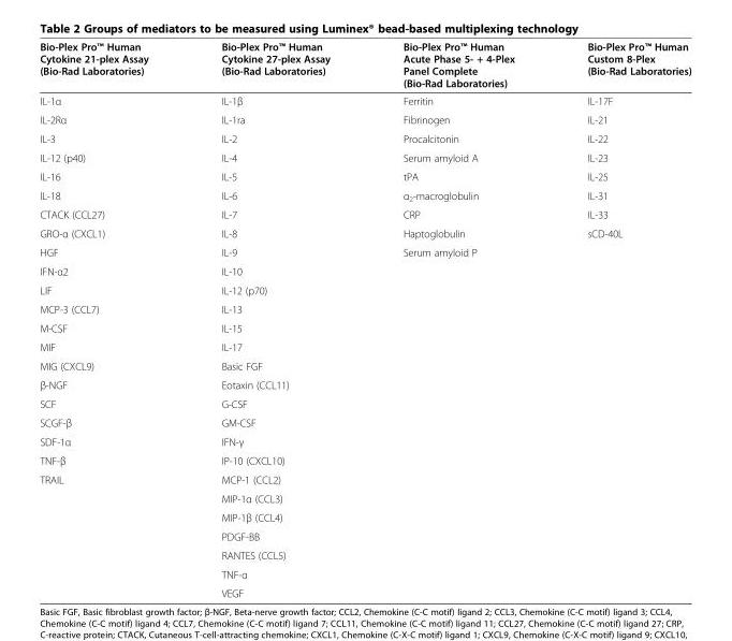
<table><thead><tr><td>Bio-Plex Pro™ Human Cytokine 21-plex Assay (Bio-Rad Laboratories)</td><td>Bio-Plex Pro™ Human Cytokine 27-plex Assay (Bio-Rad Laboratories)</td><td>Bio-Plex Pro™ Human Acute Phase 5- + 4-Plex Panel Complete (Bio-Rad Laboratories)</td><td>Bio-Plex Pro™ Human Custom 8-Plex (Bio-Rad Laboratories)</td></tr></thead><tbody><tr><td>IL-1α</td><td>IL-1β</td><td>Ferritin</td><td>IL-17F</td></tr><tr><td>IL-2Rα</td><td>IL-1ra</td><td>Fibrinogen</td><td>IL-21</td></tr><tr><td>IL-3</td><td>IL-2</td><td>Procalcitonin</td><td>IL-22</td></tr><tr><td>IL-12 (p40)</td><td>IL-4</td><td>Serum amyloid A</td><td>IL-23</td></tr><tr><td>IL-16</td><td>IL-5</td><td>tPA</td><td>IL-25</td></tr><tr><td>IL-18</td><td>IL-6</td><td>α<sub>2</sub>-macroglobulin</td><td>IL-31</td></tr><tr><td>CTACK (CCL27)</td><td>IL-7</td><td>CRP</td><td>IL-33</td></tr><tr><td>GRO-α (CXCL1)</td><td>IL-8</td><td>Haptoglobulin</td><td>sCD-40L</td></tr><tr><td>HGF</td><td>IL-9</td><td>Serum amyloid P</td><td></td></tr><tr><td>IFN-α2</td><td>IL-10</td><td></td><td></td></tr><tr><td>LIF</td><td>IL-12 (p70)</td><td></td><td></td></tr><tr><td>MCP-3 (CCL7)</td><td>IL-13</td><td></td><td></td></tr><tr><td>M-CSF</td><td>IL-15</td><td></td><td></td></tr><tr><td>MIF</td><td>IL-17</td><td></td><td></td></tr><tr><td>MIG (CXCL9)</td><td>Basic FGF</td><td></td><td></td></tr><tr><td>β-NGF</td><td>Eotaxin (CCL11)</td><td></td><td></td></tr><tr><td>SCF</td><td>G-CSF</td><td></td><td></td></tr><tr><td>SCGF-β</td><td>GM-CSF</td><td></td><td></td></tr><tr><td>SDF-1α</td><td>IFN-γ</td><td></td><td></td></tr><tr><td>TNF-β</td><td>IP-10 (CXCL10)</td><td></td><td></td></tr><tr><td rowspan="7">TRAIL</td><td>MCP-1 (CCL2)</td><td></td><td></td></tr><tr><td>MIP-1α (CCL3)</td><td></td><td></td></tr><tr><td>MIP-1β (CCL4)</td><td></td><td></td></tr><tr><td>PDGF-BB</td><td></td><td></td></tr><tr><td>RANTES (CCL5)</td><td></td><td></td></tr><tr><td>TNF-α</td><td></td><td></td></tr><tr><td>VEGF</td><td></td><td></td></tr></tbody></table>